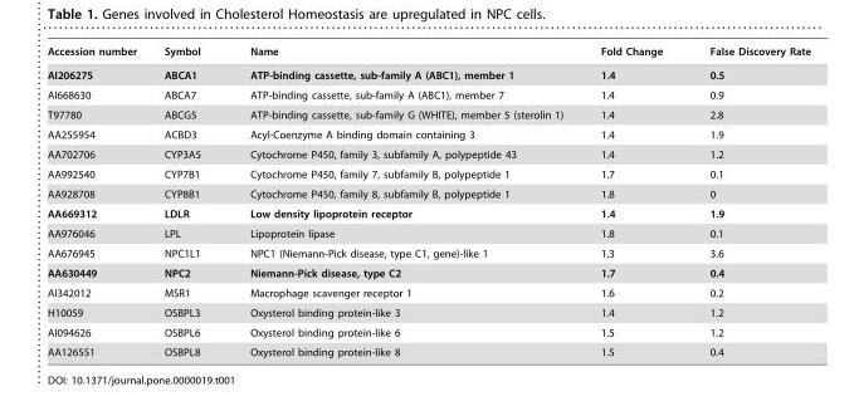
<table><thead><tr><td>Accession number</td><td>Symbol</td><td>Name</td><td>Fold Change</td><td>False Discovery Rate</td></tr></thead><tbody><tr><td>AI206275</td><td>ABCA1</td><td>ATP-binding cassette, sub-family A (ABC1), member 1</td><td>1.4</td><td>0.5</td></tr><tr><td>AI668630</td><td>ABCA7</td><td>ATP-binding cassette, sub-family A (ABC1), member 7</td><td>1.4</td><td>0.9</td></tr><tr><td>T97780</td><td>ABCG5</td><td>ATP-binding cassette, sub-family G (WHITE), member 5 (sterolin 1)</td><td>1.4</td><td>2.8</td></tr><tr><td>AA255954</td><td>ACBD3</td><td>Acyl-Coenzyme A binding domain containing 3</td><td>1.4</td><td>1.9</td></tr><tr><td>AA702706</td><td>CYP3A5</td><td>Cytochrome P450, family 3, subfamily A, polypeptide 43</td><td>1.4</td><td>1.2</td></tr><tr><td>AA992540</td><td>CYP7B1</td><td>Cytochrome P450, family 7, subfamily B, polypeptide 1</td><td>1.7</td><td>0.1</td></tr><tr><td>AA928708</td><td>CYP8B1</td><td>Cytochrome P450, family 8, subfamily B, polypeptide 1</td><td>1.8</td><td>0</td></tr><tr><td>AA669312</td><td>LDLR</td><td>Low density lipoprotein receptor</td><td>1.4</td><td>1.9</td></tr><tr><td>AA976046</td><td>LPL</td><td>Lipoprotein lipase</td><td>1.8</td><td>0.1</td></tr><tr><td>AA676945</td><td>NPC1L1</td><td>NPC1 (Niemann-Pick disease, type C1, gene)-like 1</td><td>1.3</td><td>3.6</td></tr><tr><td>AA630449</td><td>NPC2</td><td>Niemann-Pick disease, type C2</td><td>1.7</td><td>0.4</td></tr><tr><td>AI342012</td><td>MSR1</td><td>Macrophage scavenger receptor 1</td><td>1.6</td><td>0.2</td></tr><tr><td>H10059</td><td>OSBPL3</td><td>Oxysterol binding protein-like 3</td><td>1.4</td><td>1.2</td></tr><tr><td>AI094626</td><td>OSBPL6</td><td>Oxysterol binding protein-like 6</td><td>1.5</td><td>1.2</td></tr><tr><td>AA126551</td><td>OSBPL8</td><td>Oxysterol binding protein-like 8</td><td>1.5</td><td>0.4</td></tr></tbody></table>